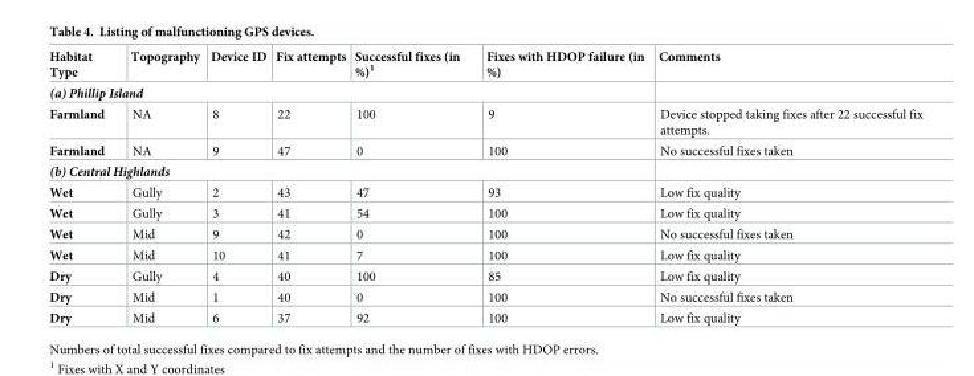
<table><thead><tr><td>Habitat Type</td><td>Topography</td><td>Device ID</td><td>Fix attempts</td><td>Successful fixes (in %)<sup>1</sup></td><td>Fixes with HDOP failure (in %)</td><td>Comments</td></tr></thead><tbody><tr><td colspan="7">(a) Phillip Island</td></tr><tr><td>Farmland</td><td>NA</td><td>8</td><td>22</td><td>100</td><td>9</td><td>Device stopped taking fixes after 22 successful fix attempts.</td></tr><tr><td>Farmland</td><td>NA</td><td>9</td><td>47</td><td>0</td><td>100</td><td>No successful fixes taken</td></tr><tr><td colspan="7">(b) Central Highlands</td></tr><tr><td>Wet</td><td>Gully</td><td>2</td><td>43</td><td>47</td><td>93</td><td>Low fix quality</td></tr><tr><td>Wet</td><td>Gully</td><td>3</td><td>41</td><td>54</td><td>100</td><td>Low fix quality</td></tr><tr><td>Wet</td><td>Mid</td><td>9</td><td>42</td><td>0</td><td>100</td><td>No successful fixes taken</td></tr><tr><td>Wet</td><td>Mid</td><td>10</td><td>41</td><td>7</td><td>100</td><td>Low fix quality</td></tr><tr><td>Dry</td><td>Gully</td><td>4</td><td>40</td><td>100</td><td>85</td><td>Low fix quality</td></tr><tr><td>Dry</td><td>Mid</td><td>1</td><td>40</td><td>0</td><td>100</td><td>No successful fixes taken</td></tr><tr><td>Dry</td><td>Mid</td><td>6</td><td>37</td><td>92</td><td>100</td><td>Low fix quality</td></tr></tbody></table>